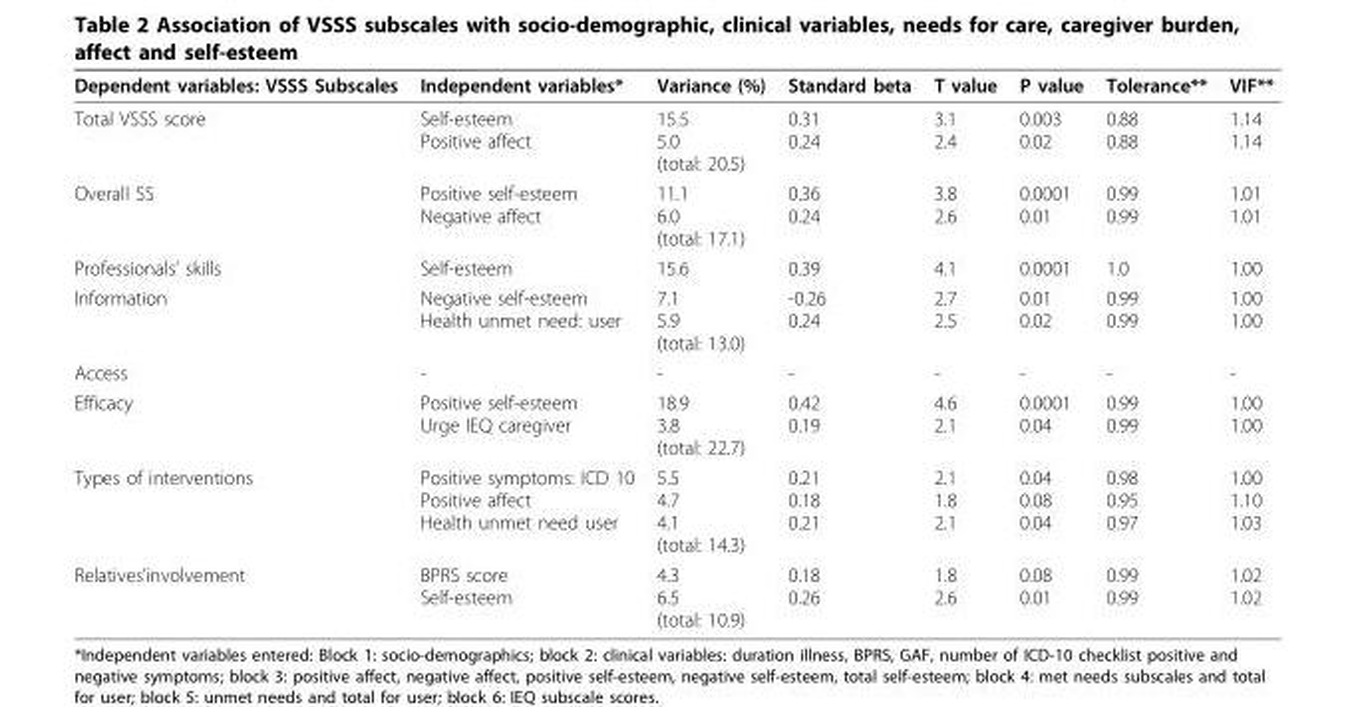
<table><thead><tr><td>Dependent variables: VSSS Subscales</td><td>Independent variables*</td><td>Variance (%)</td><td>Standard beta</td><td>T value</td><td>P value</td><td>Tolerance**</td><td>VIF**</td></tr></thead><tbody><tr><td>Total VSSS score</td><td>Self-esteem Positive affect</td><td>15.5 5.0 (total: 20.5)</td><td>0.31 0.24</td><td>3.1 2.4</td><td>0.003 0.02</td><td>0.88 0.88</td><td>1.14 1.14</td></tr><tr><td>Overall SS</td><td>Positive self-esteem Negative affect</td><td>11.1 6.0 (total: 17.1)</td><td>0.36 0.24</td><td>3.8 2.6</td><td>0.0001 0.01</td><td>0.99 0.99</td><td>1.01 1.01</td></tr><tr><td>Professionals’ skills</td><td>Self-esteem</td><td>15.6</td><td>0.39</td><td>4.1</td><td>0.0001</td><td>1.0</td><td>1.00</td></tr><tr><td>Information</td><td>Negative self-esteem Health unmet need: user</td><td>7.1 5.9 (total: 13.0)</td><td>-0.26 0.24</td><td>2.7 2.5</td><td>0.01 0.02</td><td>0.99 0.99</td><td>1.00 1.00</td></tr><tr><td>Access</td><td>-</td><td>-</td><td>-</td><td>-</td><td>-</td><td>-</td><td>-</td></tr><tr><td>Efficacy</td><td>Positive self-esteem Urge IEQ caregiver</td><td>18.9 3.8 (total: 22.7)</td><td>0.42 0.19</td><td>4.6 2.1</td><td>0.0001 0.04</td><td>0.99 0.99</td><td>1.00 1.00</td></tr><tr><td>Types of interventions</td><td>Positive symptoms: ICD 10 Positive affect Health unmet need user</td><td>5.5 4.7 4.1 (total: 14.3)</td><td>0.21 0.18 0.21</td><td>2.1 1.8 2.1</td><td>0.04 0.08 0.04</td><td>0.98 0.95 0.97</td><td>1.00 1.10 1.03</td></tr><tr><td>Relatives’involvement</td><td>BPRS score Self-esteem</td><td>4.3 6.5 (total: 10.9)</td><td>0.18 0.26</td><td>1.8 2.6</td><td>0.08 0.01</td><td>0.99 0.99</td><td>1.02 1.02</td></tr></tbody></table>